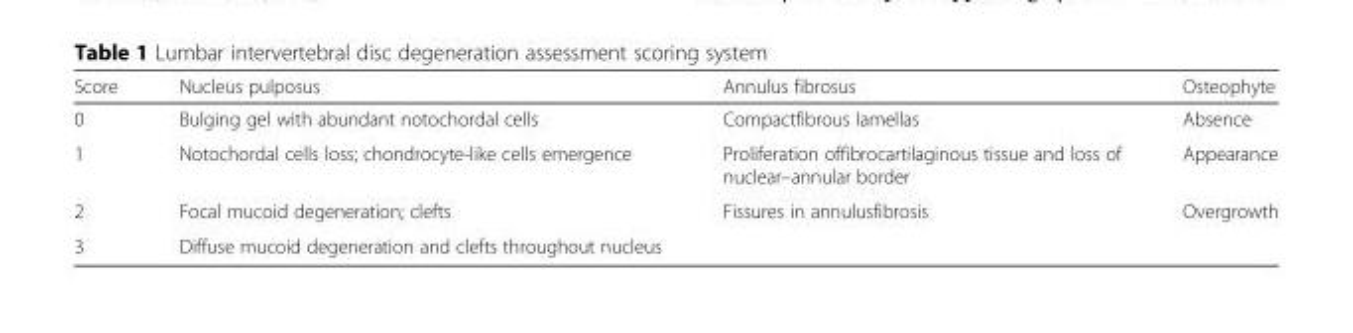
<table><thead><tr><td>Score</td><td>Nucleus pulposus</td><td>Annulus fibrosus</td><td>Osteophyte</td></tr></thead><tbody><tr><td>0</td><td>Bulging gel with abundant notochordal cells</td><td>Compactfibrous lamellas</td><td>Absence</td></tr><tr><td>1</td><td>Notochordal cells loss; chondrocyte-like cells emergence</td><td>Proliferation offibrocartilaginous tissue and loss of nuclear–annular border</td><td>Appearance</td></tr><tr><td>2</td><td>Focal mucoid degeneration; clefts</td><td>Fissures in annulusfibrosis</td><td>Overgrowth</td></tr><tr><td>3</td><td>Diffuse mucoid degeneration and clefts throughout nucleus</td><td></td><td></td></tr></tbody></table>